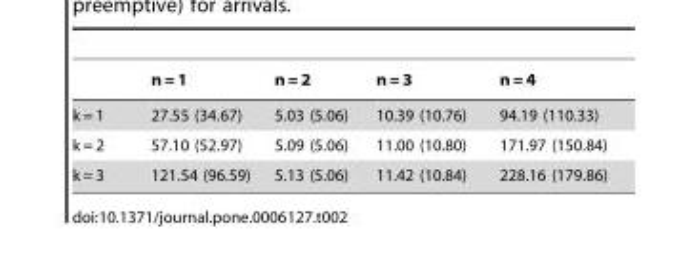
<table><thead><tr><td></td><td>n = 1</td><td>n = 2</td><td>n = 3</td><td>n = 4</td></tr></thead><tbody><tr><td>k = 1</td><td>27.55 (34.67)</td><td>5.03 (5.06)</td><td>10.39 (10.76)</td><td>94.19 (110.33)</td></tr><tr><td>k = 2</td><td>57.10 (52.97)</td><td>5.09 (5.06)</td><td>11.00 (10.80)</td><td>171.97 (150.84)</td></tr><tr><td>k = 3</td><td>121.54 (96.59)</td><td>5.13 (5.06)</td><td>11.42 (10.84)</td><td>228.16 (179.86)</td></tr></tbody></table>